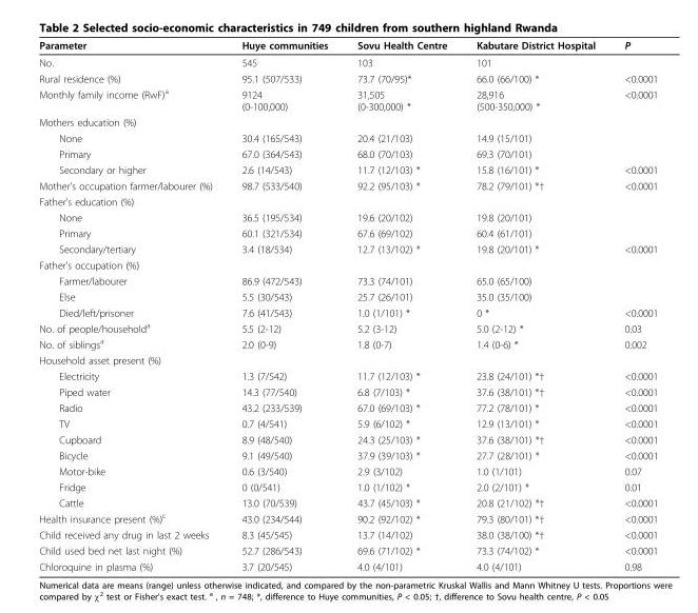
<table><thead><tr><td>Parameter</td><td>Huye communities</td><td>Sovu Health Centre</td><td>Kabutare District Hospital</td><td>P</td></tr></thead><tbody><tr><td>No.</td><td>545</td><td>103</td><td>101</td><td></td></tr><tr><td>Rural residence (%)</td><td>95.1 (507/533)</td><td>73.7 (70/95)*</td><td>66.0 (66/100) *</td><td>&lt;0.0001</td></tr><tr><td>Monthly family income (RwF)<sup>a</sup></td><td>9124 (0-100,000)</td><td>31,505 (0-300,000) *</td><td>28,916 (500-350,000) *</td><td>&lt;0.0001</td></tr><tr><td colspan="5">Mothers education (%)</td></tr><tr><td>None</td><td>30.4 (165/543)</td><td>20.4 (21/103)</td><td>14.9 (15/101)</td><td></td></tr><tr><td>Primary</td><td>67.0 (364/543)</td><td>68.0 (70/103)</td><td>69.3 (70/101)</td><td></td></tr><tr><td>Secondary or higher</td><td>2.6 (14/543)</td><td>11.7 (12/103) *</td><td>15.8 (16/101) *</td><td>&lt;0.0001</td></tr><tr><td>Mother’s occupation farmer/labourer (%)</td><td>98.7 (533/540)</td><td>92.2 (95/103) *</td><td>78.2 (79/101) *†</td><td>&lt;0.0001</td></tr><tr><td colspan="5">Father’s education (%)</td></tr><tr><td>None</td><td>36.5 (195/534)</td><td>19.6 (20/102)</td><td>19.8 (20/101)</td><td></td></tr><tr><td>Primary</td><td>60.1 (321/534)</td><td>67.6 (69/102)</td><td>60.4 (61/101)</td><td></td></tr><tr><td>Secondary/tertiary</td><td>3.4 (18/534)</td><td>12.7 (13/102) *</td><td>19.8 (20/101) *</td><td>&lt;0.0001</td></tr><tr><td colspan="5">Father’s occupation (%)</td></tr><tr><td>Farmer/labourer</td><td>86.9 (472/543)</td><td>73.3 (74/101)</td><td>65.0 (65/100)</td><td></td></tr><tr><td>Else</td><td>5.5 (30/543)</td><td>25.7 (26/101)</td><td>35.0 (35/100)</td><td></td></tr><tr><td>Died/left/prisoner</td><td>7.6 (41/543)</td><td>1.0 (1/101) *</td><td>0 *</td><td>&lt;0.0001</td></tr><tr><td>No. of people/household<sup>a</sup></td><td>5.5 (2-12)</td><td>5.2 (3-12)</td><td>5.0 (2-12) *</td><td>0.03</td></tr><tr><td>No. of siblings<sup>a</sup></td><td>2.0 (0-9)</td><td>1.8 (0-7)</td><td>1.4 (0-6) *</td><td>0.002</td></tr><tr><td colspan="5">Household asset present (%)</td></tr><tr><td>Electricity</td><td>1.3 (7/542)</td><td>11.7 (12/103) *</td><td>23.8 (24/101) *†</td><td>&lt;0.0001</td></tr><tr><td>Piped water</td><td>14.3 (77/540)</td><td>6.8 (7/103) *</td><td>37.6 (38/101) *†</td><td>&lt;0.0001</td></tr><tr><td>Radio</td><td>43.2 (233/539)</td><td>67.0 (69/103) *</td><td>77.2 (78/101) *</td><td>&lt;0.0001</td></tr><tr><td>TV</td><td>0.7 (4/541)</td><td>5.9 (6/102) *</td><td>12.9 (13/101) *</td><td>&lt;0.0001</td></tr><tr><td>Cupboard</td><td>8.9 (48/540)</td><td>24.3 (25/103) *</td><td>37.6 (38/101) *†</td><td>&lt;0.0001</td></tr><tr><td>Bicycle</td><td>9.1 (49/540)</td><td>37.9 (39/103) *</td><td>27.7 (28/101) *</td><td>&lt;0.0001</td></tr><tr><td>Motor-bike</td><td>0.6 (3/540)</td><td>2.9 (3/102)</td><td>1.0 (1/101)</td><td>0.07</td></tr><tr><td>Fridge</td><td>0 (0/541)</td><td>1.0 (1/102) *</td><td>2.0 (2/101) *</td><td>0.01</td></tr><tr><td>Cattle</td><td>13.0 (70/539)</td><td>43.7 (45/103) *</td><td>20.8 (21/102) *†</td><td>&lt;0.0001</td></tr><tr><td>Health insurance present (%)<sup>c</sup></td><td>43.0 (234/544)</td><td>90.2 (92/102) *</td><td>79.3 (80/101) *†</td><td>&lt;0.0001</td></tr><tr><td>Child received any drug in last 2 weeks</td><td>8.3 (45/545)</td><td>13.7 (14/102)</td><td>38.0 (38/100) *†</td><td>&lt;0.0001</td></tr><tr><td>Child used bed net last night (%)</td><td>52.7 (286/543)</td><td>69.6 (71/102) *</td><td>73.3 (74/102) *</td><td>&lt;0.0001</td></tr><tr><td>Chloroquine in plasma (%)</td><td>3.7 (20/545)</td><td>4.0 (4/101)</td><td>4.0 (4/101)</td><td>0.98</td></tr></tbody></table>